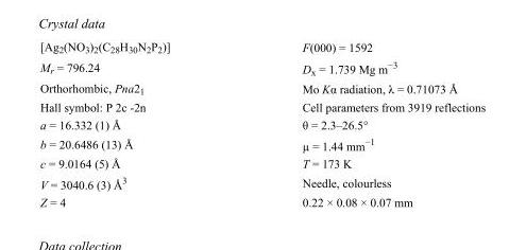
<table><tbody><tr><td>[Ag<sub>2</sub>(NO<sub>3</sub>)<sub>2</sub>(C<sub>28</sub>H<sub>30</sub>N<sub>2</sub>P<sub>2</sub>)]</td><td>F(000) = 1592</td></tr><tr><td>M<sub>r</sub> = 796.24</td><td>D<sub>x</sub> = 1.739 Mg m<sup>−3</sup></td></tr><tr><td>Orthorhombic, Pna2<sub>1</sub></td><td>Mo Kα radiation, λ = 0.71073 Å</td></tr><tr><td>Hall symbol: P 2c -2n</td><td>Cell parameters from 3919 reflections</td></tr><tr><td>a = 16.332 (1) Å</td><td>θ = 2.3–26.5°</td></tr><tr><td>b = 20.6486 (13) Å</td><td>µ = 1.44 mm<sup>−1</sup></td></tr><tr><td>c = 9.0164 (5) Å</td><td>T = 173 K</td></tr><tr><td>V = 3040.6 (3) Å<sup>3</sup></td><td>Needle, colourless</td></tr><tr><td>Z = 4</td><td>0.22 × 0.08 × 0.07 mm</td></tr></tbody></table>